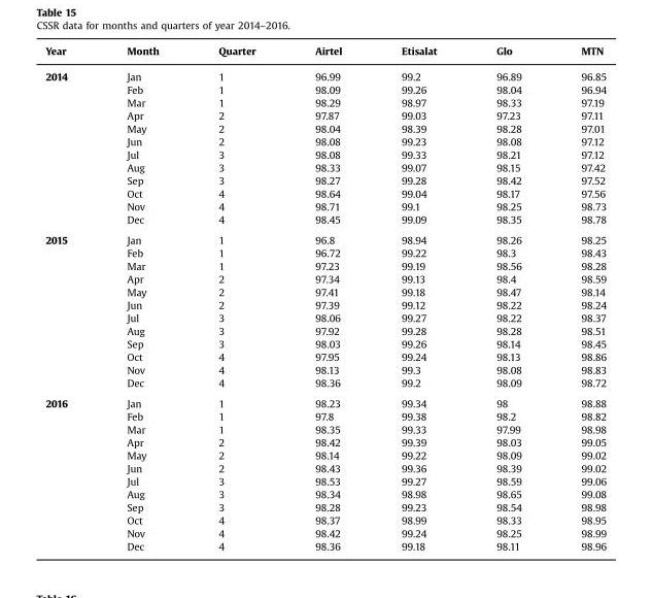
<table><thead><tr><td>Year</td><td>Month</td><td>Quarter</td><td>Airtel</td><td>Etisalat</td><td>Glo</td><td>MTN</td></tr></thead><tbody><tr><td rowspan="12">2014</td><td>Jan</td><td>1</td><td>96.99</td><td>99.2</td><td>96.89</td><td>96.85</td></tr><tr><td>Feb</td><td>1</td><td>98.09</td><td>99.26</td><td>98.04</td><td>96.94</td></tr><tr><td>Mar</td><td>1</td><td>98.29</td><td>98.97</td><td>98.33</td><td>97.19</td></tr><tr><td>Apr</td><td>2</td><td>97.87</td><td>99.03</td><td>97.23</td><td>97.11</td></tr><tr><td>May</td><td>2</td><td>98.04</td><td>98.39</td><td>98.28</td><td>97.01</td></tr><tr><td>Jun</td><td>2</td><td>98.08</td><td>99.23</td><td>98.08</td><td>97.12</td></tr><tr><td>Jul</td><td>3</td><td>98.08</td><td>99.33</td><td>98.21</td><td>97.12</td></tr><tr><td>Aug</td><td>3</td><td>98.33</td><td>99.07</td><td>98.15</td><td>97.42</td></tr><tr><td>Sep</td><td>3</td><td>98.27</td><td>99.28</td><td>98.42</td><td>97.52</td></tr><tr><td>Oct</td><td>4</td><td>98.64</td><td>99.04</td><td>98.17</td><td>97.56</td></tr><tr><td>Nov</td><td>4</td><td>98.71</td><td>99.1</td><td>98.25</td><td>98.73</td></tr><tr><td>Dec</td><td>4</td><td>98.45</td><td>99.09</td><td>98.35</td><td>98.78</td></tr><tr><td rowspan="12">2015</td><td>Jan</td><td>1</td><td>96.8</td><td>98.94</td><td>98.26</td><td>98.25</td></tr><tr><td>Feb</td><td>1</td><td>96.72</td><td>99.22</td><td>98.3</td><td>98.43</td></tr><tr><td>Mar</td><td>1</td><td>97.23</td><td>99.19</td><td>98.56</td><td>98.28</td></tr><tr><td>Apr</td><td>2</td><td>97.34</td><td>99.13</td><td>98.4</td><td>98.59</td></tr><tr><td>May</td><td>2</td><td>97.41</td><td>99.18</td><td>98.47</td><td>98.14</td></tr><tr><td>Jun</td><td>2</td><td>97.39</td><td>99.12</td><td>98.22</td><td>98.24</td></tr><tr><td>Jul</td><td>3</td><td>98.06</td><td>99.27</td><td>98.22</td><td>98.37</td></tr><tr><td>Aug</td><td>3</td><td>97.92</td><td>99.28</td><td>98.28</td><td>98.51</td></tr><tr><td>Sep</td><td>3</td><td>98.03</td><td>99.26</td><td>98.14</td><td>98.45</td></tr><tr><td>Oct</td><td>4</td><td>97.95</td><td>99.24</td><td>98.13</td><td>98.86</td></tr><tr><td>Nov</td><td>4</td><td>98.13</td><td>99.3</td><td>98.08</td><td>98.83</td></tr><tr><td>Dec</td><td>4</td><td>98.36</td><td>99.2</td><td>98.09</td><td>98.72</td></tr><tr><td rowspan="12">2016</td><td>Jan</td><td>1</td><td>98.23</td><td>99.34</td><td>98</td><td>98.88</td></tr><tr><td>Feb</td><td>1</td><td>97.8</td><td>99.38</td><td>98.2</td><td>98.82</td></tr><tr><td>Mar</td><td>1</td><td>98.35</td><td>99.33</td><td>97.99</td><td>98.98</td></tr><tr><td>Apr</td><td>2</td><td>98.42</td><td>99.39</td><td>98.03</td><td>99.05</td></tr><tr><td>May</td><td>2</td><td>98.14</td><td>99.22</td><td>98.09</td><td>99.02</td></tr><tr><td>Jun</td><td>2</td><td>98.43</td><td>99.36</td><td>98.39</td><td>99.02</td></tr><tr><td>Jul</td><td>3</td><td>98.53</td><td>99.27</td><td>98.59</td><td>99.06</td></tr><tr><td>Aug</td><td>3</td><td>98.34</td><td>98.98</td><td>98.65</td><td>99.08</td></tr><tr><td>Sep</td><td>3</td><td>98.28</td><td>99.23</td><td>98.54</td><td>98.98</td></tr><tr><td>Oct</td><td>4</td><td>98.37</td><td>98.99</td><td>98.33</td><td>98.95</td></tr><tr><td>Nov</td><td>4</td><td>98.42</td><td>99.24</td><td>98.25</td><td>98.99</td></tr><tr><td>Dec</td><td>4</td><td>98.36</td><td>99.18</td><td>98.11</td><td>98.96</td></tr></tbody></table>